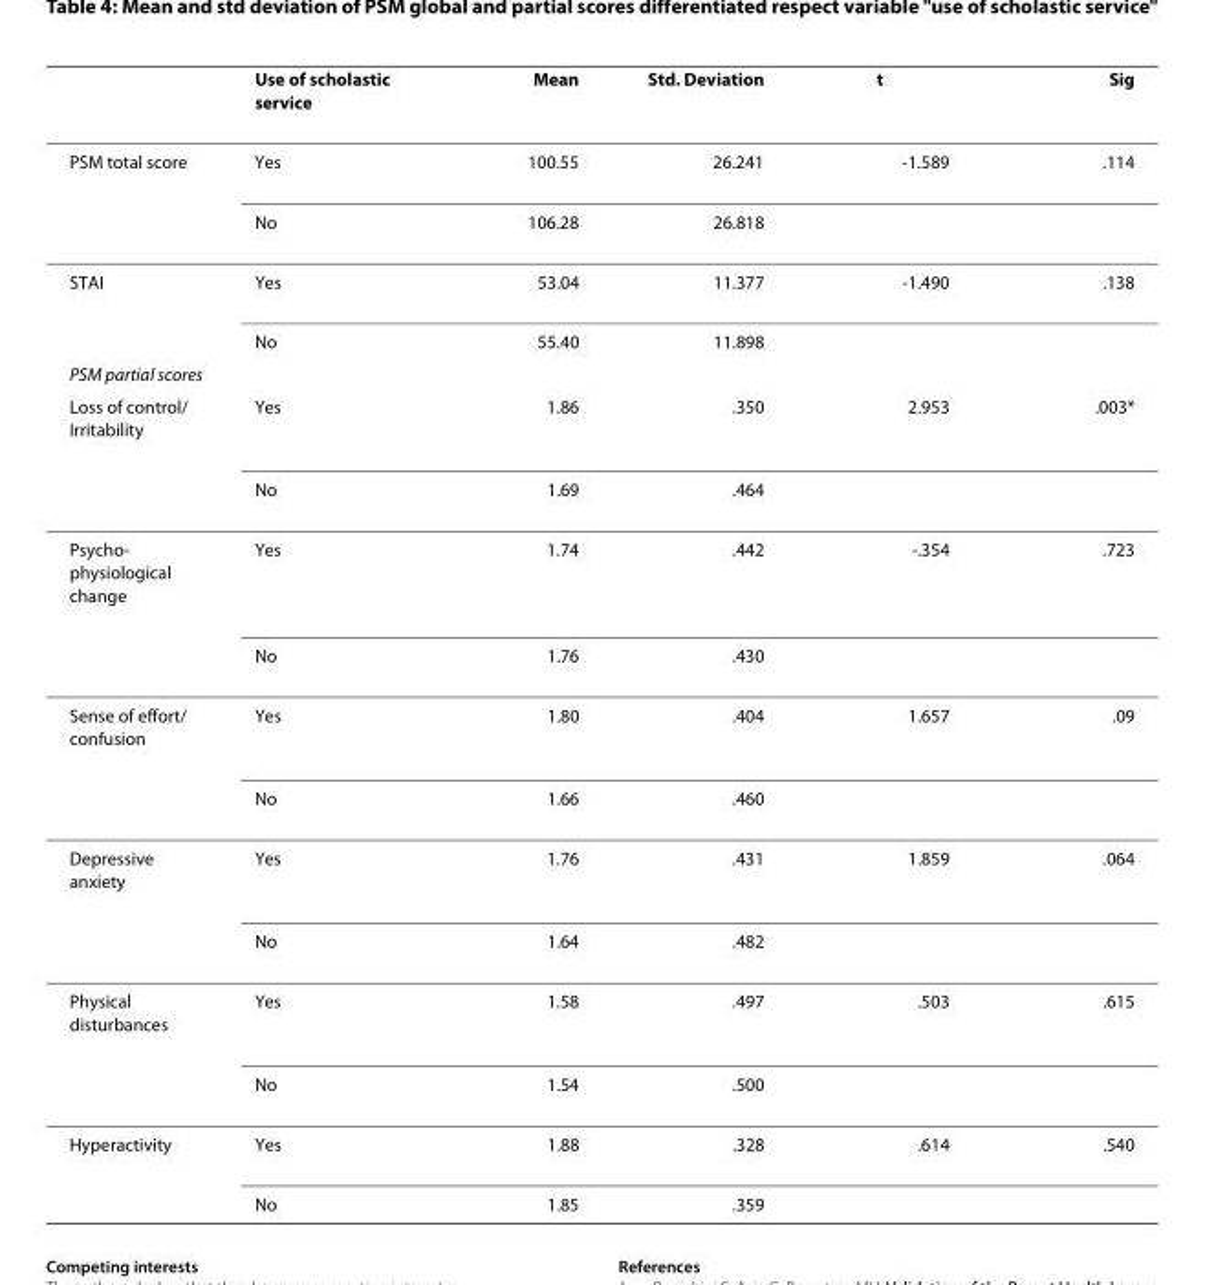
<table><thead><tr><td></td><td>Use of scholastic service</td><td>Mean</td><td>Std. Deviation</td><td>t</td><td>Sig</td></tr></thead><tbody><tr><td rowspan="2">PSM total score</td><td>Yes</td><td>100.55</td><td>26.241</td><td>-1.589</td><td>.114</td></tr><tr><td>No</td><td>106.28</td><td>26.818</td><td></td><td></td></tr><tr><td rowspan="2">STAI</td><td>Yes</td><td>53.04</td><td>11.377</td><td>-1.490</td><td>.138</td></tr><tr><td>No</td><td>55.40</td><td>11.898</td><td></td><td></td></tr><tr><td colspan="6">PSM partial scores</td></tr><tr><td rowspan="2">Loss of control/ Irritability</td><td>Yes</td><td>1.86</td><td>.350</td><td>2.953</td><td>.003*</td></tr><tr><td>No</td><td>1.69</td><td>.464</td><td></td><td></td></tr><tr><td rowspan="2">Psycho- physiological change</td><td>Yes</td><td>1.74</td><td>.442</td><td>-.354</td><td>.723</td></tr><tr><td>No</td><td>1.76</td><td>.430</td><td></td><td></td></tr><tr><td rowspan="2">Sense of effort/ confusion</td><td>Yes</td><td>1.80</td><td>.404</td><td>1.657</td><td>.09</td></tr><tr><td>No</td><td>1.66</td><td>.460</td><td></td><td></td></tr><tr><td rowspan="2">Depressive anxiety</td><td>Yes</td><td>1.76</td><td>.431</td><td>1.859</td><td>.064</td></tr><tr><td>No</td><td>1.64</td><td>.482</td><td></td><td></td></tr><tr><td rowspan="2">Physical disturbances</td><td>Yes</td><td>1.58</td><td>.497</td><td>.503</td><td>.615</td></tr><tr><td>No</td><td>1.54</td><td>.500</td><td></td><td></td></tr><tr><td rowspan="2">Hyperactivity</td><td>Yes</td><td>1.88</td><td>.328</td><td>.614</td><td>.540</td></tr><tr><td>No</td><td>1.85</td><td>.359</td><td></td><td></td></tr></tbody></table>